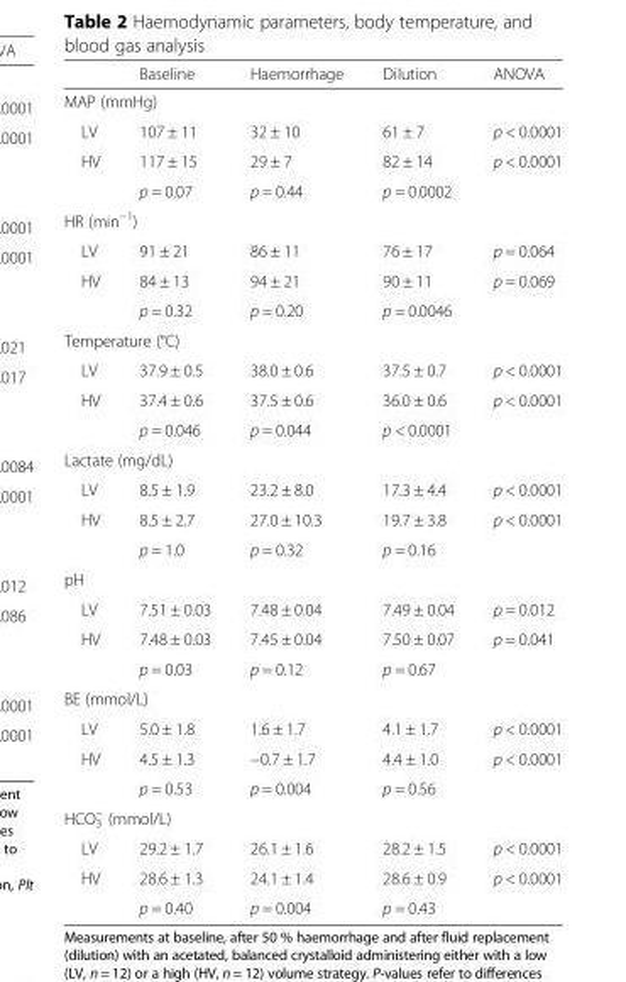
<table><thead><tr><td></td><td>Baseline</td><td>Haemorrhage</td><td>Dilution</td><td>ANOVA</td></tr></thead><tbody><tr><td colspan="5">MAP (mmHg)</td></tr><tr><td>LV</td><td>107 ± 11</td><td>32 ± 10</td><td>61 ± 7</td><td>p &lt; 0.0001</td></tr><tr><td rowspan="2">HV</td><td>117 ± 15</td><td>29 ± 7</td><td>82 ± 14</td><td>p &lt; 0.0001</td></tr><tr><td>p = 0.07</td><td>p = 0.44</td><td>p = 0.0002</td><td></td></tr><tr><td colspan="5">HR (min<sup>−1</sup>)</td></tr><tr><td>LV</td><td>91 ± 21</td><td>86 ± 11</td><td>76 ± 17</td><td>p = 0.064</td></tr><tr><td rowspan="2">HV</td><td>84 ± 13</td><td>94 ± 21</td><td>90 ± 11</td><td>p = 0.069</td></tr><tr><td>p = 0.32</td><td>p = 0.20</td><td>p = 0.0046</td><td></td></tr><tr><td colspan="5">Temperature (°C)</td></tr><tr><td>LV</td><td>37.9 ± 0.5</td><td>38.0 ± 0.6</td><td>37.5 ± 0.7</td><td>p &lt; 0.0001</td></tr><tr><td rowspan="2">HV</td><td>37.4 ± 0.6</td><td>37.5 ± 0.6</td><td>36.0 ± 0.6</td><td>p &lt; 0.0001</td></tr><tr><td>p = 0.046</td><td>p = 0.044</td><td>p &lt; 0.0001</td><td></td></tr><tr><td colspan="5">Lactate (mg/dL)</td></tr><tr><td>LV</td><td>8.5 ± 1.9</td><td>23.2 ± 8.0</td><td>17.3 ± 4.4</td><td>p &lt; 0.0001</td></tr><tr><td rowspan="2">HV</td><td>8.5 ± 2.7</td><td>27.0 ± 10.3</td><td>19.7 ± 3.8</td><td>p &lt; 0.0001</td></tr><tr><td>p = 1.0</td><td>p = 0.32</td><td>p = 0.16</td><td></td></tr><tr><td colspan="5">pH</td></tr><tr><td>LV</td><td>7.51 ± 0.03</td><td>7.48 ± 0.04</td><td>7.49 ± 0.04</td><td>p = 0.012</td></tr><tr><td rowspan="2">HV</td><td>7.48 ± 0.03</td><td>7.45 ± 0.04</td><td>7.50 ± 0.07</td><td>p = 0.041</td></tr><tr><td>p = 0.03</td><td>p = 0.12</td><td>p = 0.67</td><td></td></tr><tr><td colspan="5">BE (mmol/L)</td></tr><tr><td>LV</td><td>5.0 ± 1.8</td><td>1.6 ± 1.7</td><td>4.1 ± 1.7</td><td>p &lt; 0.0001</td></tr><tr><td rowspan="2">HV</td><td>4.5 ± 1.3</td><td>−0.7 ± 1.7</td><td>4.4 ± 1.0</td><td>p &lt; 0.0001</td></tr><tr><td>p = 0.53</td><td>p = 0.004</td><td>p = 0.56</td><td></td></tr><tr><td colspan="5">HCO<sub>3</sub> <sup>−</sup> (mmol/L)</td></tr><tr><td>LV</td><td>29.2 ± 1.7</td><td>26.1 ± 1.6</td><td>28.2 ± 1.5</td><td>p &lt; 0.0001</td></tr><tr><td rowspan="2">HV</td><td>28.6 ± 1.3</td><td>24.1 ± 1.4</td><td>28.6 ± 0.9</td><td>p &lt; 0.0001</td></tr><tr><td>p = 0.40</td><td>p = 0.004</td><td>p = 0.43</td><td></td></tr></tbody></table>